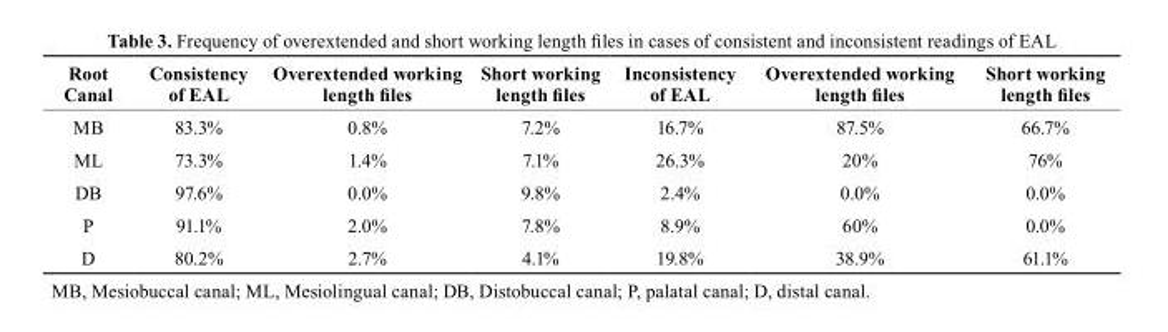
<table><thead><tr><td>root canal</td><td>consistency of EAL</td><td>Overextended working length files</td><td>short working length files</td><td>Inconsistency of EAL</td><td>Overextended working length files</td><td>short working length files</td></tr></thead><tbody><tr><td>MB</td><td>83.3%</td><td>0.8%</td><td>7.2%</td><td>16.7%</td><td>87.5%</td><td>66.7%</td></tr><tr><td>ML</td><td>73.3%</td><td>1.4%</td><td>7.1%</td><td>26.3%</td><td>20%</td><td>76%</td></tr><tr><td>DB</td><td>97.6%</td><td>0.0%</td><td>9.8%</td><td>2.4%</td><td>0.0%</td><td>0.0%</td></tr><tr><td>P</td><td>91.1%</td><td>2.0%</td><td>7.8%</td><td>8.9%</td><td>60%</td><td>0.0%</td></tr><tr><td>D</td><td>80.2%</td><td>2.7%</td><td>4.1%</td><td>19.8%</td><td>38.9%</td><td>61.1%</td></tr></tbody></table>